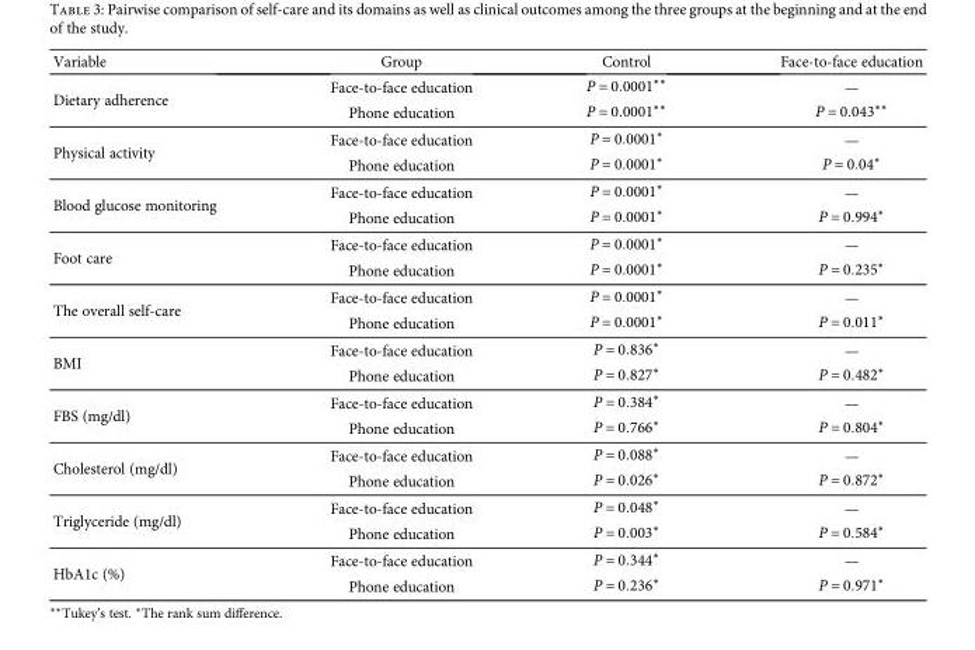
<table><thead><tr><td>Variable</td><td>Group</td><td>Control</td><td>Face-to-face education</td></tr></thead><tbody><tr><td rowspan="2">Dietary adherence</td><td>Face-to-face education</td><td>P = 0 0001∗∗</td><td>—</td></tr><tr><td>Phone education</td><td>P = 0 0001∗∗</td><td>P = 0 043∗∗</td></tr><tr><td rowspan="2">Physical activity</td><td>Face-to-face education</td><td>P = 0 0001∗</td><td>—</td></tr><tr><td>Phone education</td><td>P = 0 0001∗</td><td>P = 0 04∗</td></tr><tr><td rowspan="2">Blood glucose monitoring</td><td>Face-to-face education</td><td>P = 0 0001∗</td><td>—</td></tr><tr><td>Phone education</td><td>P = 0 0001∗</td><td>P = 0 994∗</td></tr><tr><td rowspan="2">Foot care</td><td>Face-to-face education</td><td>P = 0 0001∗</td><td>—</td></tr><tr><td>Phone education</td><td>P = 0 0001∗</td><td>P = 0 235∗</td></tr><tr><td rowspan="2">The overall self-care</td><td>Face-to-face education</td><td>P = 0 0001∗</td><td>—</td></tr><tr><td>Phone education</td><td>P = 0 0001∗</td><td>P = 0 011∗</td></tr><tr><td rowspan="2">BMI</td><td>Face-to-face education</td><td>P = 0 836∗</td><td>—</td></tr><tr><td>Phone education</td><td>P = 0 827∗</td><td>P = 0 482∗</td></tr><tr><td rowspan="2">FBS (mg/dl)</td><td>Face-to-face education</td><td>P = 0 384∗</td><td>—</td></tr><tr><td>Phone education</td><td>P = 0 766∗</td><td>P = 0 804∗</td></tr><tr><td rowspan="2">Cholesterol (mg/dl)</td><td>Face-to-face education</td><td>P = 0 088∗</td><td>—</td></tr><tr><td>Phone education</td><td>P = 0 026∗</td><td>P = 0 872∗</td></tr><tr><td rowspan="2">Triglyceride (mg/dl)</td><td>Face-to-face education</td><td>P = 0 048∗</td><td>—</td></tr><tr><td>Phone education</td><td>P = 0 003∗</td><td>P = 0 584∗</td></tr><tr><td rowspan="2">HbA1c (%)</td><td>Face-to-face education</td><td>P = 0 344∗</td><td>—</td></tr><tr><td>Phone education</td><td>P = 0 236∗</td><td>P = 0 971∗</td></tr></tbody></table>